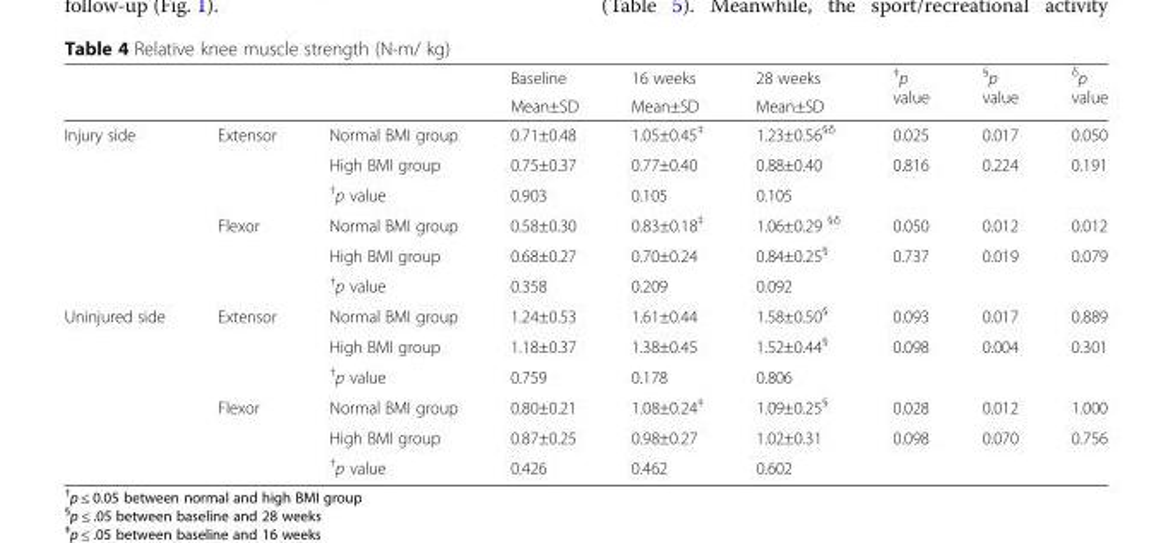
<table><thead><tr><td rowspan="2"></td><td rowspan="2"></td><td rowspan="2"></td><td rowspan="2">Baseline Mean±SD</td><td rowspan="2">16 weeks Mean±SD</td><td rowspan="2">28 weeks Mean±SD</td><td rowspan="2"><sup>‡</sup>p value</td><td rowspan="2"><sup>§</sup>p value</td><td rowspan="2"><sup>δ</sup>p value</td></tr><tr></tr></thead><tbody><tr><td rowspan="6">Injury side</td><td rowspan="3">Extensor</td><td>Normal BMI group</td><td>0.71±0.48</td><td>1.05±0.45<sup>‡</sup></td><td>1.23±0.56<sup>§δ</sup></td><td>0.025</td><td>0.017</td><td>0.050</td></tr><tr><td>High BMI group</td><td>0.75±0.37</td><td>0.77±0.40</td><td>0.88±0.40</td><td>0.816</td><td>0.224</td><td>0.191</td></tr><tr><td><sup>†</sup>p value</td><td>0.903</td><td>0.105</td><td>0.105</td><td></td><td></td><td></td></tr><tr><td rowspan="3">Flexor</td><td>Normal BMI group</td><td>0.58±0.30</td><td>0.83±0.18<sup>‡</sup></td><td>1.06±0.29 <sup>§δ</sup></td><td>0.050</td><td>0.012</td><td>0.012</td></tr><tr><td>High BMI group</td><td>0.68±0.27</td><td>0.70±0.24</td><td>0.84±0.25<sup>§</sup></td><td>0.737</td><td>0.019</td><td>0.079</td></tr><tr><td><sup>†</sup>p value</td><td>0.358</td><td>0.209</td><td>0.092</td><td></td><td></td><td></td></tr><tr><td rowspan="6">Uninjured side</td><td rowspan="3">Extensor</td><td>Normal BMI group</td><td>1.24±0.53</td><td>1.61±0.44</td><td>1.58±0.50<sup>§</sup></td><td>0.093</td><td>0.017</td><td>0.889</td></tr><tr><td>High BMI group</td><td>1.18±0.37</td><td>1.38±0.45</td><td>1.52±0.44<sup>§</sup></td><td>0.098</td><td>0.004</td><td>0.301</td></tr><tr><td><sup>†</sup>p value</td><td>0.759</td><td>0.178</td><td>0.806</td><td></td><td></td><td></td></tr><tr><td rowspan="3">Flexor</td><td>Normal BMI group</td><td>0.80±0.21</td><td>1.08±0.24<sup>‡</sup></td><td>1.09±0.25<sup>§</sup></td><td>0.028</td><td>0.012</td><td>1.000</td></tr><tr><td>High BMI group</td><td>0.87±0.25</td><td>0.98±0.27</td><td>1.02±0.31</td><td>0.098</td><td>0.070</td><td>0.756</td></tr><tr><td><sup>†</sup>p value</td><td>0.426</td><td>0.462</td><td>0.602</td><td></td><td></td><td></td></tr></tbody></table>